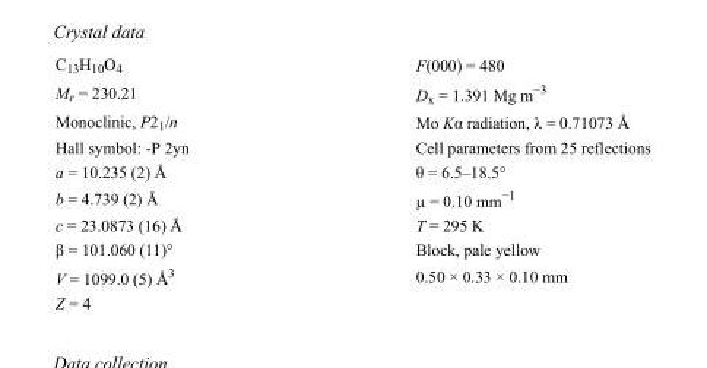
<table><tbody><tr><td>C<sub>13</sub>H<sub>10</sub>O<sub>4</sub></td><td>F(000) = 480</td></tr><tr><td>M<sub>r</sub> = 230.21</td><td>D<sub>x</sub> = 1.391 Mg m<sup>−3</sup></td></tr><tr><td>Monoclinic, P2<sub>1</sub>/n</td><td>Mo Kα radiation, λ = 0.71073 Å</td></tr><tr><td>Hall symbol: -P 2yn</td><td>Cell parameters from 25 reflections</td></tr><tr><td>a = 10.235 (2) Å</td><td>θ = 6.5–18.5°</td></tr><tr><td>b = 4.739 (2) Å</td><td>µ = 0.10 mm<sup>−1</sup></td></tr><tr><td>c = 23.0873 (16) Å</td><td>T = 295 K</td></tr><tr><td>β = 101.060 (11)°</td><td>Block, pale yellow</td></tr><tr><td>V = 1099.0 (5) Å<sup>3</sup></td><td>0.50 × 0.33 × 0.10 mm</td></tr><tr><td>Z = 4</td><td></td></tr></tbody></table>